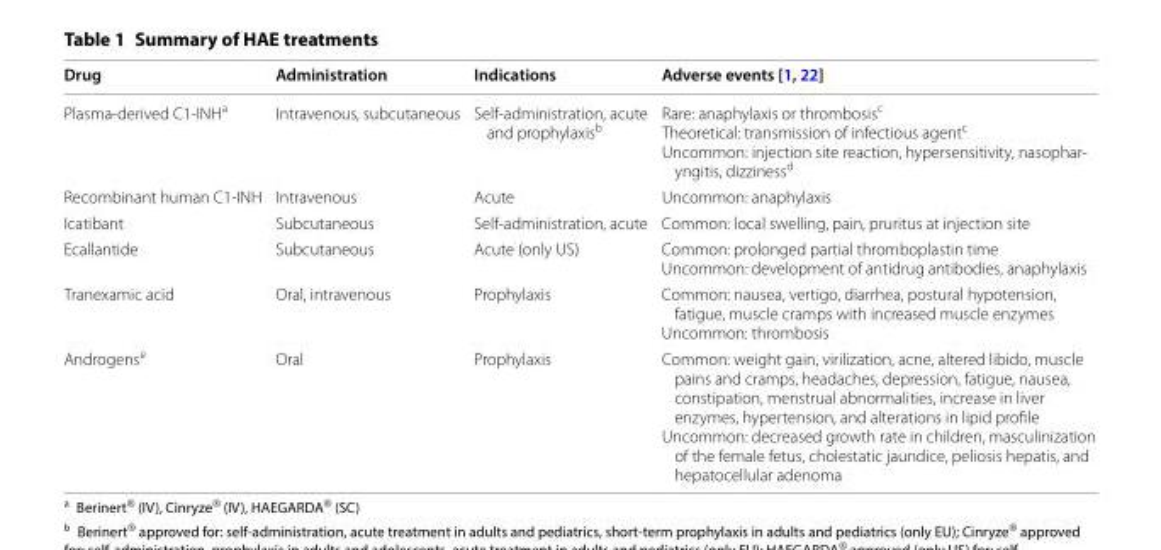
<table><thead><tr><td>Drug</td><td>Administration</td><td>Indications</td><td>Adverse events [1, 22]</td></tr></thead><tbody><tr><td>Plasma-derived C1-INH<sup>a</sup></td><td>Intravenous, subcutaneous</td><td>Self-administration, acute and prophylaxis<sup>b</sup></td><td>Rare: anaphylaxis or thrombosisc Theoretical: transmission of infectious agentc Uncommon: injection site reaction, hypersensitivity, nasophar- yngitis, dizzinessd</td></tr><tr><td>Recombinant human C1-INH</td><td>Intravenous</td><td>Acute</td><td>Uncommon: anaphylaxis</td></tr><tr><td>Icatibant</td><td>Subcutaneous</td><td>Self-administration, acute</td><td>Common: local swelling, pain, pruritus at injection site</td></tr><tr><td>Ecallantide</td><td>Subcutaneous</td><td>Acute (only US)</td><td>Common: prolonged partial thromboplastin time Uncommon: development of antidrug antibodies, anaphylaxis</td></tr><tr><td>Tranexamic acid</td><td>Oral, intravenous</td><td>Prophylaxis</td><td>Common: nausea, vertigo, diarrhea, postural hypotension, fatigue, muscle cramps with increased muscle enzymes Uncommon: thrombosis</td></tr><tr><td>Androgens<sup>e</sup></td><td>Oral</td><td>Prophylaxis</td><td>Common: weight gain, virilization, acne, altered libido, muscle pains and cramps, headaches, depression, fatigue, nausea, constipation, menstrual abnormalities, increase in liver enzymes, hypertension, and alterations in lipid profile Uncommon: decreased growth rate in children, masculinization of the female fetus, cholestatic jaundice, peliosis hepatis, and hepatocellular adenoma</td></tr></tbody></table>